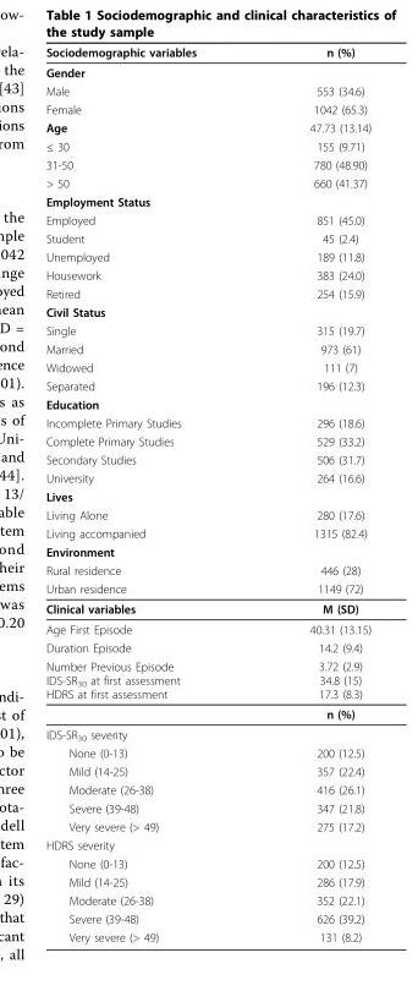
<table><thead><tr><td>Sociodemographic variables</td><td>n (%)</td></tr></thead><tbody><tr><td colspan="2">Gender</td></tr><tr><td>Male</td><td>553 (34.6)</td></tr><tr><td>Female</td><td>1042 (65.3)</td></tr><tr><td>Age</td><td>47.73 (13.14)</td></tr><tr><td>≤ 30</td><td>155 (9.71)</td></tr><tr><td>31-50</td><td>780 (48.90)</td></tr><tr><td>&gt; 50</td><td>660 (41.37)</td></tr><tr><td colspan="2">Employment Status</td></tr><tr><td>Employed</td><td>851 (45.0)</td></tr><tr><td>Student</td><td>45 (2.4)</td></tr><tr><td>Unemployed</td><td>189 (11.8)</td></tr><tr><td>Housework</td><td>383 (24.0)</td></tr><tr><td>Retired</td><td>254 (15.9)</td></tr><tr><td colspan="2">Civil Status</td></tr><tr><td>Single</td><td>315 (19.7)</td></tr><tr><td>Married</td><td>973 (61)</td></tr><tr><td>Widowed</td><td>111 (7)</td></tr><tr><td>Separated</td><td>196 (12.3)</td></tr><tr><td colspan="2">Education</td></tr><tr><td>Incomplete Primary Studies</td><td>296 (18.6)</td></tr><tr><td>Complete Primary Studies</td><td>529 (33.2)</td></tr><tr><td>Secondary Studies</td><td>506 (31.7)</td></tr><tr><td>University</td><td>264 (16.6)</td></tr><tr><td colspan="2">Lives</td></tr><tr><td>Living Alone</td><td>280 (17.6)</td></tr><tr><td>Living accompanied</td><td>1315 (82.4)</td></tr><tr><td colspan="2">Environment</td></tr><tr><td>Rural residence</td><td>446 (28)</td></tr><tr><td>Urban residence</td><td>1149 (72)</td></tr><tr><td>Clinical variables</td><td>M (SD)</td></tr><tr><td>Age First Episode</td><td>40.31 (13.15)</td></tr><tr><td>Duration Episode</td><td>14.2 (9.4)</td></tr><tr><td rowspan="2">Number Previous Episode IDS-SR<sub>30</sub> at first assessment HDRS at first assessment</td><td>3.72 (2.9) 34.8 (15) 17.3 (8.3)</td></tr><tr><td>n (%)</td></tr><tr><td colspan="2">IDS-SR<sub>30</sub> severity</td></tr><tr><td>None (0-13)</td><td>200 (12.5)</td></tr><tr><td>Mild (14-25)</td><td>357 (22.4)</td></tr><tr><td>Moderate (26-38)</td><td>416 (26.1)</td></tr><tr><td>Severe (39-48)</td><td>347 (21.8)</td></tr><tr><td>Very severe (&gt; 49)</td><td>275 (17.2)</td></tr><tr><td colspan="2">HDRS severity</td></tr><tr><td>None (0-13)</td><td>200 (12.5)</td></tr><tr><td>Mild (14-25)</td><td>286 (17.9)</td></tr><tr><td>Moderate (26-38)</td><td>352 (22.1)</td></tr><tr><td>Severe (39-48)</td><td>626 (39.2)</td></tr><tr><td>Very severe (&gt; 49)</td><td>131 (8.2)</td></tr></tbody></table>